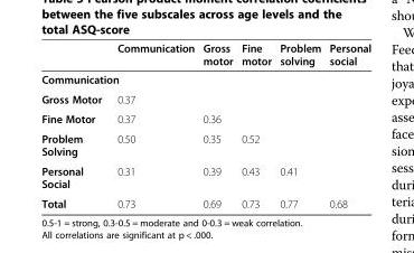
<table><thead><tr><td></td><td>Communication</td><td>Gross motor</td><td>Fine motor</td><td>Problem solving</td><td>Personal social</td></tr></thead><tbody><tr><td colspan="6">Communication</td></tr><tr><td>Gross Motor</td><td>0.37</td><td></td><td></td><td></td><td></td></tr><tr><td>Fine Motor</td><td>0.37</td><td>0.36</td><td></td><td></td><td></td></tr><tr><td>Problem Solving</td><td>0.50</td><td>0.35</td><td>0.52</td><td></td><td></td></tr><tr><td>Personal Social</td><td>0.31</td><td>0.39</td><td>0.43</td><td>0.41</td><td></td></tr><tr><td>Total</td><td>0.73</td><td>0.69</td><td>0.73</td><td>0.77</td><td>0.68</td></tr></tbody></table>